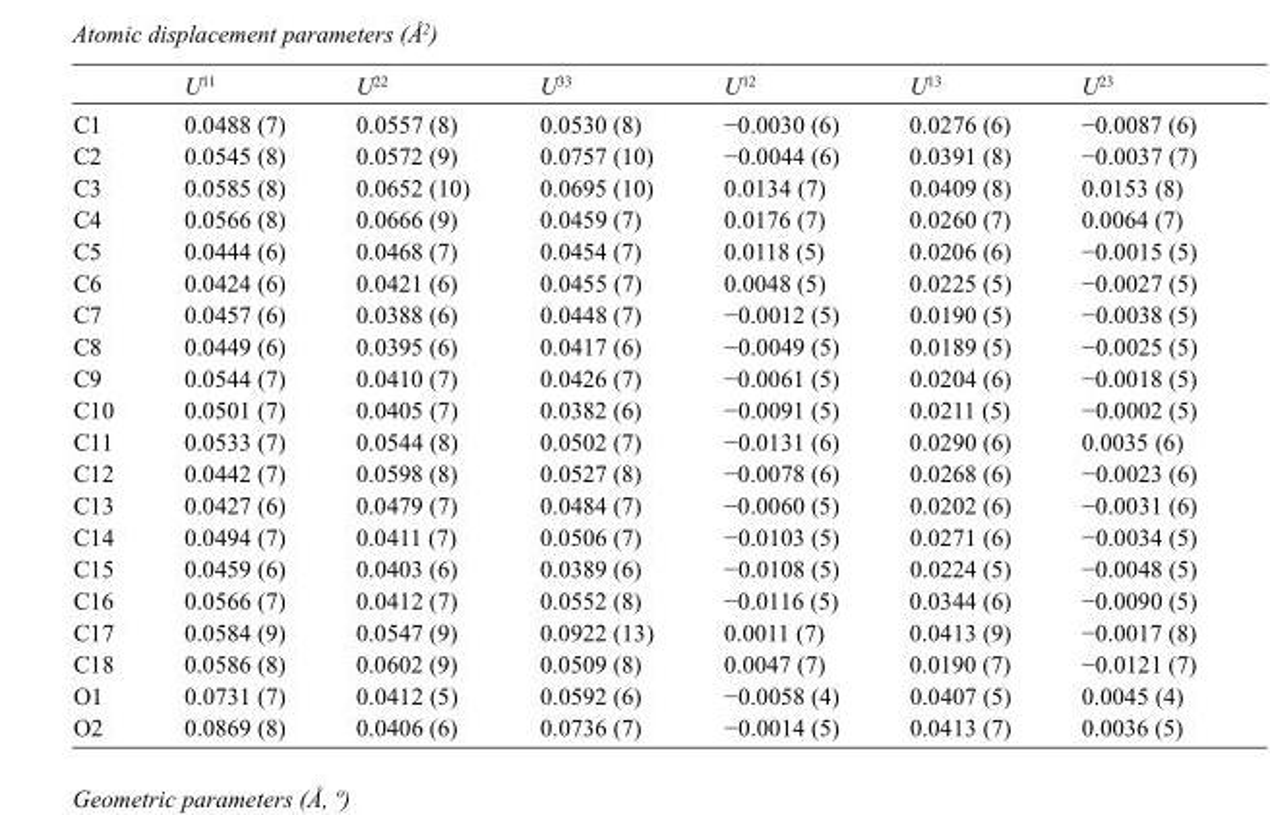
<table><thead><tr><td></td><td>U<sup>11</sup></td><td>U<sup>22</sup></td><td>U<sup>33</sup></td><td>U<sup>12</sup></td><td>U<sup>13</sup></td><td>U<sup>23</sup></td></tr></thead><tbody><tr><td>C1</td><td>0.0488 (7)</td><td>0.0557 (8)</td><td>0.0530 (8)</td><td>−0.0030 (6)</td><td>0.0276 (6)</td><td>−0.0087 (6)</td></tr><tr><td>C2</td><td>0.0545 (8)</td><td>0.0572 (9)</td><td>0.0757 (10)</td><td>−0.0044 (6)</td><td>0.0391 (8)</td><td>−0.0037 (7)</td></tr><tr><td>C3</td><td>0.0585 (8)</td><td>0.0652 (10)</td><td>0.0695 (10)</td><td>0.0134 (7)</td><td>0.0409 (8)</td><td>0.0153 (8)</td></tr><tr><td>C4</td><td>0.0566 (8)</td><td>0.0666 (9)</td><td>0.0459 (7)</td><td>0.0176 (7)</td><td>0.0260 (7)</td><td>0.0064 (7)</td></tr><tr><td>C5</td><td>0.0444 (6)</td><td>0.0468 (7)</td><td>0.0454 (7)</td><td>0.0118 (5)</td><td>0.0206 (6)</td><td>−0.0015 (5)</td></tr><tr><td>C6</td><td>0.0424 (6)</td><td>0.0421 (6)</td><td>0.0455 (7)</td><td>0.0048 (5)</td><td>0.0225 (5)</td><td>−0.0027 (5)</td></tr><tr><td>C7</td><td>0.0457 (6)</td><td>0.0388 (6)</td><td>0.0448 (7)</td><td>−0.0012 (5)</td><td>0.0190 (5)</td><td>−0.0038 (5)</td></tr><tr><td>C8</td><td>0.0449 (6)</td><td>0.0395 (6)</td><td>0.0417 (6)</td><td>−0.0049 (5)</td><td>0.0189 (5)</td><td>−0.0025 (5)</td></tr><tr><td>C9</td><td>0.0544 (7)</td><td>0.0410 (7)</td><td>0.0426 (7)</td><td>−0.0061 (5)</td><td>0.0204 (6)</td><td>−0.0018 (5)</td></tr><tr><td>C10</td><td>0.0501 (7)</td><td>0.0405 (7)</td><td>0.0382 (6)</td><td>−0.0091 (5)</td><td>0.0211 (5)</td><td>−0.0002 (5)</td></tr><tr><td>C11</td><td>0.0533 (7)</td><td>0.0544 (8)</td><td>0.0502 (7)</td><td>−0.0131 (6)</td><td>0.0290 (6)</td><td>0.0035 (6)</td></tr><tr><td>C12</td><td>0.0442 (7)</td><td>0.0598 (8)</td><td>0.0527 (8)</td><td>−0.0078 (6)</td><td>0.0268 (6)</td><td>−0.0023 (6)</td></tr><tr><td>C13</td><td>0.0427 (6)</td><td>0.0479 (7)</td><td>0.0484 (7)</td><td>−0.0060 (5)</td><td>0.0202 (6)</td><td>−0.0031 (6)</td></tr><tr><td>C14</td><td>0.0494 (7)</td><td>0.0411 (7)</td><td>0.0506 (7)</td><td>−0.0103 (5)</td><td>0.0271 (6)</td><td>−0.0034 (5)</td></tr><tr><td>C15</td><td>0.0459 (6)</td><td>0.0403 (6)</td><td>0.0389 (6)</td><td>−0.0108 (5)</td><td>0.0224 (5)</td><td>−0.0048 (5)</td></tr><tr><td>C16</td><td>0.0566 (7)</td><td>0.0412 (7)</td><td>0.0552 (8)</td><td>−0.0116 (5)</td><td>0.0344 (6)</td><td>−0.0090 (5)</td></tr><tr><td>C17</td><td>0.0584 (9)</td><td>0.0547 (9)</td><td>0.0922 (13)</td><td>0.0011 (7)</td><td>0.0413 (9)</td><td>−0.0017 (8)</td></tr><tr><td>C18</td><td>0.0586 (8)</td><td>0.0602 (9)</td><td>0.0509 (8)</td><td>0.0047 (7)</td><td>0.0190 (7)</td><td>−0.0121 (7)</td></tr><tr><td>O1</td><td>0.0731 (7)</td><td>0.0412 (5)</td><td>0.0592 (6)</td><td>−0.0058 (4)</td><td>0.0407 (5)</td><td>0.0045 (4)</td></tr><tr><td>O2</td><td>0.0869 (8)</td><td>0.0406 (6)</td><td>0.0736 (7)</td><td>−0.0014 (5)</td><td>0.0413 (7)</td><td>0.0036 (5)</td></tr></tbody></table>